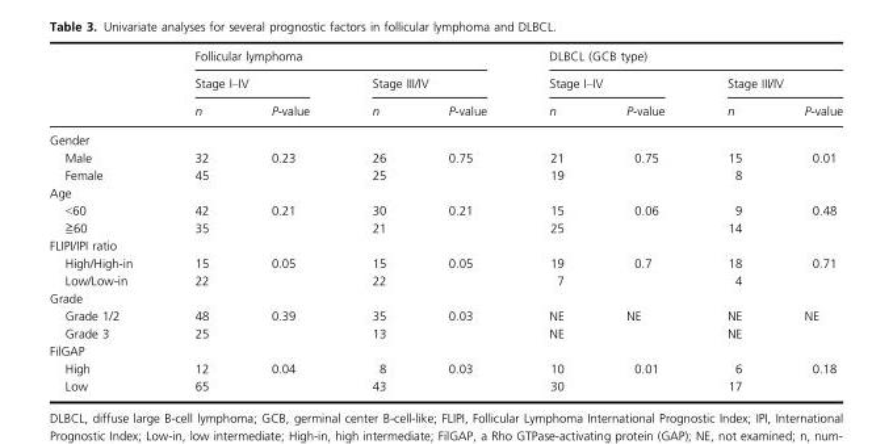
<table><thead><tr><td rowspan="3"></td><td colspan="4">Follicular lymphoma</td><td colspan="4">DLBCL (GCB type)</td></tr><tr><td colspan="2">Stage I–IV</td><td colspan="2">Stage III/IV</td><td colspan="2">Stage I–IV</td><td colspan="2">Stage III/IV</td></tr><tr><td>n</td><td>P-value</td><td>n</td><td>P-value</td><td>n</td><td>P-value</td><td>n</td><td>P-value</td></tr></thead><tbody><tr><td colspan="9">Gender</td></tr><tr><td>Male</td><td>32</td><td rowspan="2">0.23</td><td>26</td><td rowspan="2">0.75</td><td>21</td><td rowspan="2">0.75</td><td>15</td><td rowspan="2">0.01</td></tr><tr><td>Female</td><td>45</td><td>25</td><td>19</td><td>8</td></tr><tr><td colspan="9">Age</td></tr><tr><td>&lt;60</td><td>42</td><td rowspan="2">0.21</td><td>30</td><td rowspan="2">0.21</td><td>15</td><td rowspan="2">0.06</td><td>9</td><td rowspan="2">0.48</td></tr><tr><td>≧60</td><td>35</td><td>21</td><td>25</td><td>14</td></tr><tr><td colspan="9">FLIPI/IPI ratio</td></tr><tr><td>High/High-in</td><td>15</td><td rowspan="2">0.05</td><td>15</td><td rowspan="2">0.05</td><td>19</td><td rowspan="2">0.7</td><td>18</td><td rowspan="2">0.71</td></tr><tr><td>Low/Low-in</td><td>22</td><td>22</td><td>7</td><td>4</td></tr><tr><td colspan="9">Grade</td></tr><tr><td>Grade 1/2</td><td>48</td><td rowspan="2">0.39</td><td>35</td><td rowspan="2">0.03</td><td>NE</td><td rowspan="2">NE</td><td>NE</td><td rowspan="2">NE</td></tr><tr><td>Grade 3</td><td>25</td><td>13</td><td>NE</td><td>NE</td></tr><tr><td colspan="9">FilGAP</td></tr><tr><td>High</td><td>12</td><td rowspan="2">0.04</td><td>8</td><td rowspan="2">0.03</td><td>10</td><td rowspan="2">0.01</td><td>6</td><td rowspan="2">0.18</td></tr><tr><td>Low</td><td>65</td><td>43</td><td>30</td><td>17</td></tr></tbody></table>